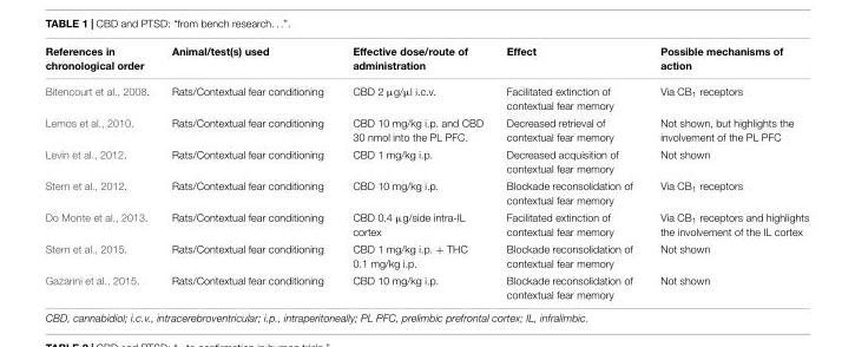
<table><thead><tr><td>References in chronological order</td><td>Animal/test(s) used</td><td>Effective dose/route of administration</td><td>Effect</td><td>Possible mechanisms of action</td></tr></thead><tbody><tr><td>Bitencourt et al., 2008.</td><td>Rats/Contextual fear conditioning</td><td>CBD 2 µg/µl i.c.v.</td><td>Facilitated extinction of contextual fear memory</td><td>Via CB<sub>1</sub> receptors</td></tr><tr><td>Lemos et al., 2010.</td><td>Rats/Contextual fear conditioning</td><td>CBD 10 mg/kg i.p. and CBD 30 nmol into the PL PFC.</td><td>Decreased retrieval of contextual fear memory</td><td>Not shown, but highlights the involvement of the PL PFC</td></tr><tr><td>Levin et al., 2012.</td><td>Rats/Contextual fear conditioning</td><td>CBD 1 mg/kg i.p.</td><td>Decreased acquisition of contextual fear memory</td><td>Not shown</td></tr><tr><td>Stern et al., 2012.</td><td>Rats/Contextual fear conditioning</td><td>CBD 10 mg/kg i.p.</td><td>Blockade reconsolidation of contextual fear memory</td><td>Via CB<sub>1</sub> receptors</td></tr><tr><td>Do Monte et al., 2013.</td><td>Rats/Contextual fear conditioning</td><td>CBD 0.4 µg/side intra-IL cortex</td><td>Facilitated extinction of contextual fear memory</td><td>Via CB<sub>1</sub> receptors and highlights the involvement of the IL cortex</td></tr><tr><td>Stern et al., 2015.</td><td>Rats/Contextual fear conditioning</td><td>CBD 1 mg/kg i.p. + THC 0.1 mg/kg i.p.</td><td>Blockade reconsolidation of contextual fear memory</td><td>Not shown</td></tr><tr><td>Gazarini et al., 2015.</td><td>Rats/Contextual fear conditioning</td><td>CBD 10 mg/kg i.p.</td><td>Blockade reconsolidation of contextual fear memory</td><td>Not shown</td></tr></tbody></table>